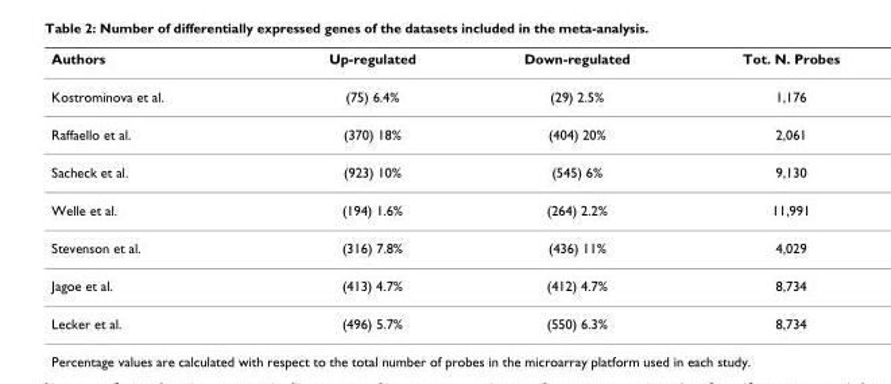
<table><thead><tr><td>Authors</td><td>Up-regulated</td><td>Down-regulated</td><td>Tot. N. Probes</td></tr></thead><tbody><tr><td>Kostrominova et al.</td><td>(75) 6.4%</td><td>(29) 2.5%</td><td>1,176</td></tr><tr><td>Raffaello et al.</td><td>(370) 18%</td><td>(404) 20%</td><td>2,061</td></tr><tr><td>Sacheck et al.</td><td>(923) 10%</td><td>(545) 6%</td><td>9,130</td></tr><tr><td>Welle et al.</td><td>(194) 1.6%</td><td>(264) 2.2%</td><td>11,991</td></tr><tr><td>Stevenson et al.</td><td>(316) 7.8%</td><td>(436) 11%</td><td>4,029</td></tr><tr><td>Jagoe et al.</td><td>(413) 4.7%</td><td>(412) 4.7%</td><td>8,734</td></tr><tr><td>Lecker et al.</td><td>(496) 5.7%</td><td>(550) 6.3%</td><td>8,734</td></tr></tbody></table>